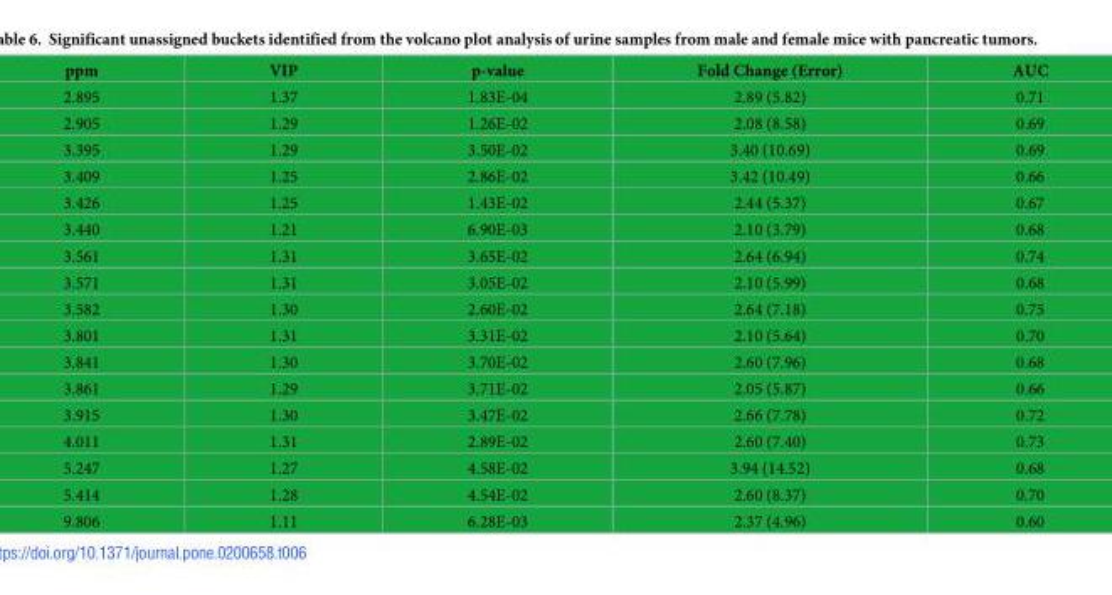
<table><thead><tr><td>ppm</td><td>VIP</td><td>p-value</td><td>Fold Change (Error)</td><td>AUC</td></tr></thead><tbody><tr><td>2.895</td><td>1.37</td><td>1.83E-04</td><td>2.89 (5.82)</td><td>0.71</td></tr><tr><td>2.905</td><td>1.29</td><td>1.26E-02</td><td>2.08 (8.58)</td><td>0.69</td></tr><tr><td>3.395</td><td>1.29</td><td>3.50E-02</td><td>3.40 (10.69)</td><td>0.69</td></tr><tr><td>3.409</td><td>1.25</td><td>2.86E-02</td><td>3.42 (10.49)</td><td>0.66</td></tr><tr><td>3.426</td><td>1.25</td><td>1.43E-02</td><td>2.44 (5.37)</td><td>0.67</td></tr><tr><td>3.440</td><td>1.21</td><td>6.90E-03</td><td>2.10 (3.79)</td><td>0.68</td></tr><tr><td>3.561</td><td>1.31</td><td>3.65E-02</td><td>2.64 (6.94)</td><td>0.74</td></tr><tr><td>3.571</td><td>1.31</td><td>3.05E-02</td><td>2.10 (5.99)</td><td>0.68</td></tr><tr><td>3.582</td><td>1.30</td><td>2.60E-02</td><td>2.64 (7.18)</td><td>0.75</td></tr><tr><td>3.801</td><td>1.31</td><td>3.31E-02</td><td>2.10 (5.64)</td><td>0.70</td></tr><tr><td>3.841</td><td>1.30</td><td>3.70E-02</td><td>2.60 (7.96)</td><td>0.68</td></tr><tr><td>3.861</td><td>1.29</td><td>3.71E-02</td><td>2.05 (5.87)</td><td>0.66</td></tr><tr><td>3.915</td><td>1.30</td><td>3.47E-02</td><td>2.66 (7.78)</td><td>0.72</td></tr><tr><td>4.011</td><td>1.31</td><td>2.89E-02</td><td>2.60 (7.40)</td><td>0.73</td></tr><tr><td>5.247</td><td>1.27</td><td>4.58E-02</td><td>3.94 (14.52)</td><td>0.68</td></tr><tr><td>5.414</td><td>1.28</td><td>4.54E-02</td><td>2.60 (8.37)</td><td>0.70</td></tr><tr><td>9.806</td><td>1.11</td><td>6.28E-03</td><td>2.37 (4.96)</td><td>0.60</td></tr></tbody></table>